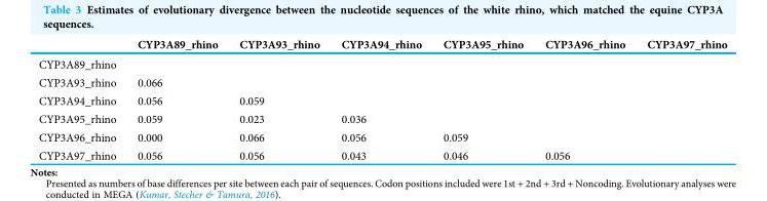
<table><thead><tr><td></td><td>CYP3A89_rhino</td><td>CYP3A93_rhino</td><td>CYP3A94_rhino</td><td>CYP3A95_rhino</td><td>CYP3A96_rhino</td><td>CYP3A97_rhino</td></tr></thead><tbody><tr><td colspan="7">CYP3A89_rhino</td></tr><tr><td>CYP3A93_rhino</td><td>0.066</td><td></td><td></td><td></td><td></td><td></td></tr><tr><td>CYP3A94_rhino</td><td>0.056</td><td>0.059</td><td></td><td></td><td></td><td></td></tr><tr><td>CYP3A95_rhino</td><td>0.059</td><td>0.023</td><td>0.036</td><td></td><td></td><td></td></tr><tr><td>CYP3A96_rhino</td><td>0.000</td><td>0.066</td><td>0.056</td><td>0.059</td><td></td><td></td></tr><tr><td>CYP3A97_rhino</td><td>0.056</td><td>0.056</td><td>0.043</td><td>0.046</td><td>0.056</td><td></td></tr></tbody></table>